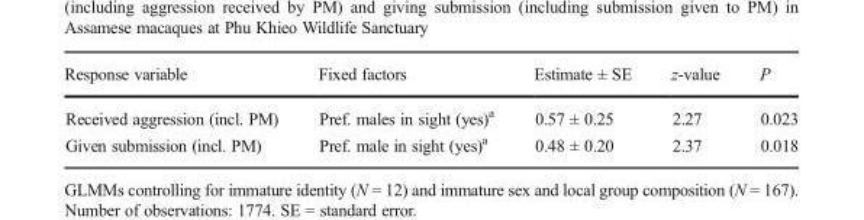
<table><thead><tr><td>Response variable</td><td>Fixed factors</td><td>Estimate ± SE</td><td>z-value</td><td>P</td></tr></thead><tbody><tr><td>Received aggression (incl. PM)</td><td>Pref. males in sight (yes)<sup>a</sup></td><td>0.57 ± 0.25</td><td>2.27</td><td>0.023</td></tr><tr><td>Given submission (incl. PM)</td><td>Pref. male in sight (yes)<sup>a</sup></td><td>0.48 ± 0.20</td><td>2.37</td><td>0.018</td></tr></tbody></table>